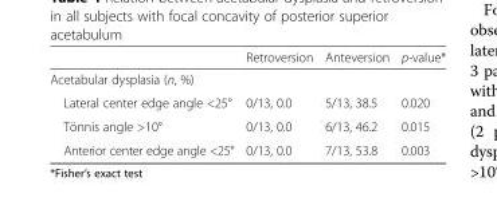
<table><thead><tr><td></td><td>Retroversion</td><td>Anteversion</td><td>p-value*</td></tr></thead><tbody><tr><td colspan="4">Acetabular dysplasia (n, %)</td></tr><tr><td>Lateral center edge angle &lt;25°</td><td>0/13, 0.0</td><td>5/13, 38.5</td><td>0.020</td></tr><tr><td>Tönnis angle &gt;10°</td><td>0/13, 0.0</td><td>6/13, 46.2</td><td>0.015</td></tr><tr><td>Anterior center edge angle &lt;25°</td><td>0/13, 0.0</td><td>7/13, 53.8</td><td>0.003</td></tr></tbody></table>